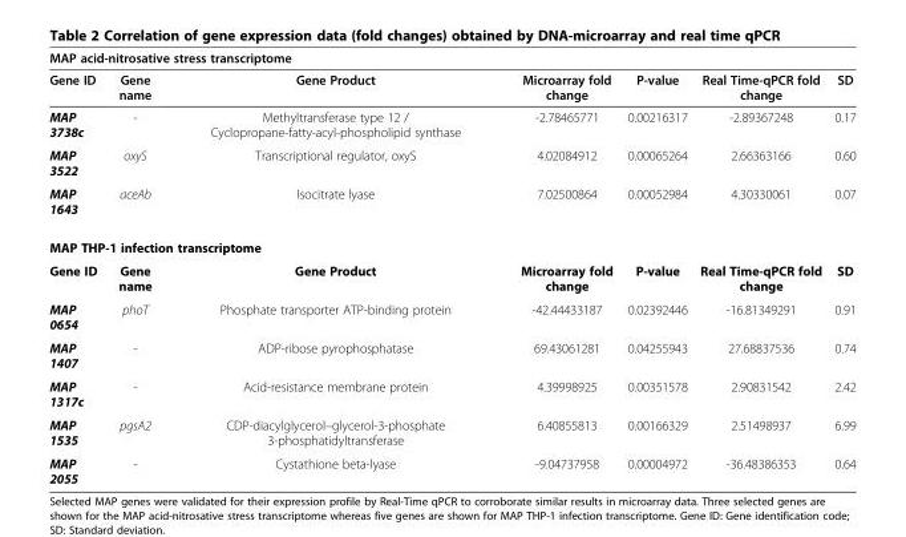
<table><thead><tr><td colspan="7">MAP acid-nitrosative stress transcriptome</td></tr><tr><td>Gene ID</td><td>Gene name</td><td>Gene Product</td><td>Microarray fold change</td><td>P-value</td><td>Real Time-qPCR fold change</td><td>SD</td></tr></thead><tbody><tr><td>MAP 3738c</td><td>-</td><td>Methyltransferase type 12 / Cyclopropane-fatty-acyl-phospholipid synthase</td><td>-2.78465771</td><td>0.00216317</td><td>-2.89367248</td><td>0.17</td></tr><tr><td>MAP 3522</td><td>oxyS</td><td>Transcriptional regulator, oxyS</td><td>4.02084912</td><td>0.00065264</td><td>2.66363166</td><td>0.60</td></tr><tr><td>MAP 1643</td><td>aceAb</td><td>Isocitrate lyase</td><td>7.02500864</td><td>0.00052984</td><td>4.30330061</td><td>0.07</td></tr><tr><td colspan="7">MAP THP-1 infection transcriptome</td></tr><tr><td>Gene ID</td><td>Gene name</td><td>Gene Product</td><td>Microarray fold change</td><td>P-value</td><td>Real Time-qPCR fold change</td><td>SD</td></tr><tr><td>MAP 0654</td><td>phoT</td><td>Phosphate transporter ATP-binding protein</td><td>-42.44433187</td><td>0.02392446</td><td>-16.81349291</td><td>0.91</td></tr><tr><td>MAP 1407</td><td>-</td><td>ADP-ribose pyrophosphatase</td><td>69.43061281</td><td>0.04255943</td><td>27.68837536</td><td>0.74</td></tr><tr><td>MAP 1317c</td><td>-</td><td>Acid-resistance membrane protein</td><td>4.39998925</td><td>0.00351578</td><td>2.90831542</td><td>2.42</td></tr><tr><td>MAP 1535</td><td>pgsA2</td><td>CDP-diacylglycerol–glycerol-3-phosphate 3-phosphatidyltransferase</td><td>6.40855813</td><td>0.00166329</td><td>2.51498937</td><td>6.99</td></tr><tr><td>MAP 2055</td><td>-</td><td>Cystathione beta-lyase</td><td>-9.04737958</td><td>0.00004972</td><td>-36.48386353</td><td>0.64</td></tr></tbody></table>